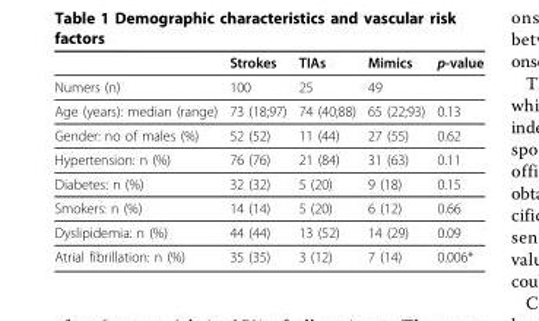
<table><thead><tr><td></td><td>Strokes</td><td>TIAs</td><td>Mimics</td><td>p-value</td></tr></thead><tbody><tr><td>Numers (n)</td><td>100</td><td>25</td><td>49</td><td></td></tr><tr><td>Age (years): median (range)</td><td>73 (18;97)</td><td>74 (40;88)</td><td>65 (22;93)</td><td>0.13</td></tr><tr><td>Gender: no of males (%)</td><td>52 (52)</td><td>11 (44)</td><td>27 (55)</td><td>0.62</td></tr><tr><td>Hypertension: n (%)</td><td>76 (76)</td><td>21 (84)</td><td>31 (63)</td><td>0.11</td></tr><tr><td>Diabetes: n (%)</td><td>32 (32)</td><td>5 (20)</td><td>9 (18)</td><td>0.15</td></tr><tr><td>Smokers: n (%)</td><td>14 (14)</td><td>5 (20)</td><td>6 (12)</td><td>0.66</td></tr><tr><td>Dyslipidemia: n (%)</td><td>44 (44)</td><td>13 (52)</td><td>14 (29)</td><td>0.09</td></tr><tr><td>Atrial fibrillation: n (%)</td><td>35 (35)</td><td>3 (12)</td><td>7 (14)</td><td>0.006*</td></tr></tbody></table>